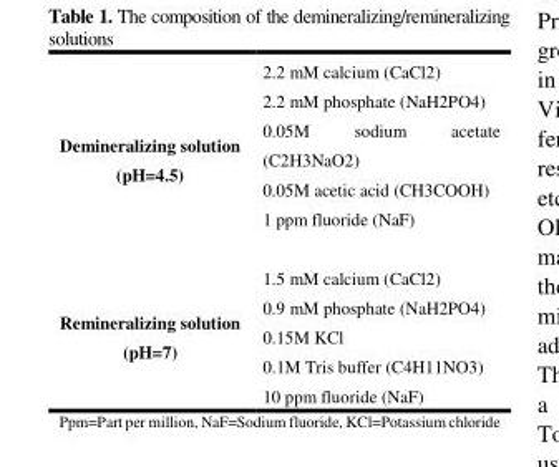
<table><tbody><tr><td rowspan="5">Demineralizing solution (pH=4.5)</td><td>2.2 mM calcium (CaCl2)</td></tr><tr><td>2.2 mM phosphate (NaH2PO4)</td></tr><tr><td>0.05M sodium acetate (C2H3NaO2)</td></tr><tr><td>0.05M acetic acid (CH3COOH)</td></tr><tr><td>1 ppm fluoride (NaF)</td></tr><tr><td rowspan="5">Remineralizing solution (pH=7)</td><td>1.5 mM calcium (CaCl2)</td></tr><tr><td>0.9 mM phosphate (NaH2PO4)</td></tr><tr><td>0.15M KCl</td></tr><tr><td>0.1M Tris buffer (C4H11NO3)</td></tr><tr><td>10 ppm fluoride (NaF)</td></tr></tbody></table>